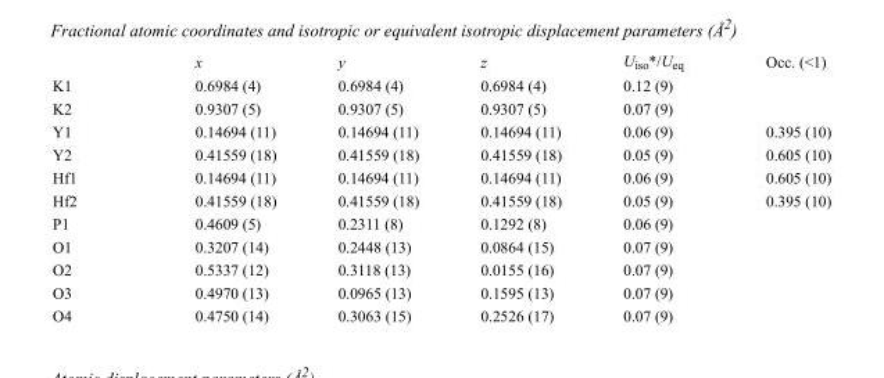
<table><thead><tr><td></td><td>x</td><td>y</td><td>z</td><td>U<sub>iso</sub>*/U<sub>eq</sub></td><td>Occ. (&lt;1)</td></tr></thead><tbody><tr><td>K1</td><td>0.6984 (4)</td><td>0.6984 (4)</td><td>0.6984 (4)</td><td>0.12 (9)</td><td></td></tr><tr><td>K2</td><td>0.9307 (5)</td><td>0.9307 (5)</td><td>0.9307 (5)</td><td>0.07 (9)</td><td></td></tr><tr><td>Y1</td><td>0.14694 (11)</td><td>0.14694 (11)</td><td>0.14694 (11)</td><td>0.06 (9)</td><td>0.395 (10)</td></tr><tr><td>Y2</td><td>0.41559 (18)</td><td>0.41559 (18)</td><td>0.41559 (18)</td><td>0.05 (9)</td><td>0.605 (10)</td></tr><tr><td>Hf1</td><td>0.14694 (11)</td><td>0.14694 (11)</td><td>0.14694 (11)</td><td>0.06 (9)</td><td>0.605 (10)</td></tr><tr><td>Hf2</td><td>0.41559 (18)</td><td>0.41559 (18)</td><td>0.41559 (18)</td><td>0.05 (9)</td><td>0.395 (10)</td></tr><tr><td>P1</td><td>0.4609 (5)</td><td>0.2311 (8)</td><td>0.1292 (8)</td><td>0.06 (9)</td><td></td></tr><tr><td>O1</td><td>0.3207 (14)</td><td>0.2448 (13)</td><td>0.0864 (15)</td><td>0.07 (9)</td><td></td></tr><tr><td>O2</td><td>0.5337 (12)</td><td>0.3118 (13)</td><td>0.0155 (16)</td><td>0.07 (9)</td><td></td></tr><tr><td>O3</td><td>0.4970 (13)</td><td>0.0965 (13)</td><td>0.1595 (13)</td><td>0.07 (9)</td><td></td></tr><tr><td>O4</td><td>0.4750 (14)</td><td>0.3063 (15)</td><td>0.2526 (17)</td><td>0.07 (9)</td><td></td></tr></tbody></table>